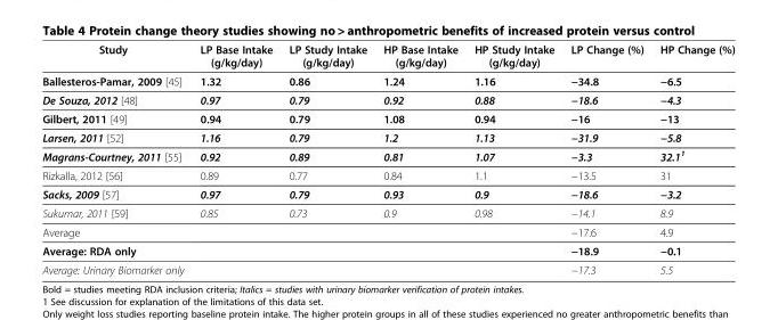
<table><thead><tr><td>Study</td><td>LP Base Intake (g/kg/day)</td><td>LP Study Intake (g/kg/day)</td><td>HP Base Intake (g/kg/day)</td><td>HP Study Intake (g/kg/day)</td><td>LP Change (%)</td><td>HP Change (%)</td></tr></thead><tbody><tr><td>Ballesteros-Pamar, 2009 [45]</td><td>1.32</td><td>0.86</td><td>1.24</td><td>1.16</td><td>−34.8</td><td>−6.5</td></tr><tr><td>De Souza, 2012 [48]</td><td>0.97</td><td>0.79</td><td>0.92</td><td>0.88</td><td>−18.6</td><td>−4.3</td></tr><tr><td>Gilbert, 2011 [49]</td><td>0.94</td><td>0.79</td><td>1.08</td><td>0.94</td><td>−16</td><td>−13</td></tr><tr><td>Larsen, 2011 [52]</td><td>1.16</td><td>0.79</td><td>1.2</td><td>1.13</td><td>−31.9</td><td>−5.8</td></tr><tr><td>Magrans-Courtney, 2011 [55]</td><td>0.92</td><td>0.89</td><td>0.81</td><td>1.07</td><td>−3.3</td><td>32.1<sup>1</sup></td></tr><tr><td>Rizkalla, 2012 [56]</td><td>0.89</td><td>0.77</td><td>0.84</td><td>1.1</td><td>−13.5</td><td>31</td></tr><tr><td>Sacks, 2009 [57]</td><td>0.97</td><td>0.79</td><td>0.93</td><td>0.9</td><td>−18.6</td><td>−3.2</td></tr><tr><td>Sukumar, 2011 [59]</td><td>0.85</td><td>0.73</td><td>0.9</td><td>0.98</td><td>−14.1</td><td>8.9</td></tr><tr><td>Average</td><td></td><td></td><td></td><td></td><td>−17.6</td><td>4.9</td></tr><tr><td>Average: RDA only</td><td></td><td></td><td></td><td></td><td>−18.9</td><td>−0.1</td></tr><tr><td>Average: Urinary Biomarker only</td><td></td><td></td><td></td><td></td><td>−17.3</td><td>5.5</td></tr></tbody></table>